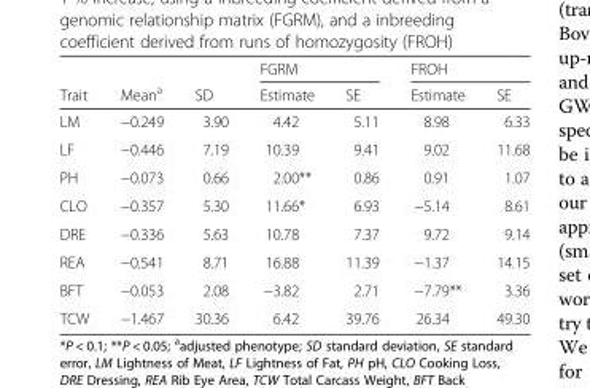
<table><thead><tr><td rowspan="2">Trait</td><td rowspan="2">Mean<sup>a</sup></td><td rowspan="2">SD</td><td colspan="2">FGRM</td><td colspan="2">FROH</td></tr><tr><td>Estimate</td><td>SE</td><td>Estimate</td><td>SE</td></tr></thead><tbody><tr><td>LM</td><td>−0.249</td><td>3.90</td><td>4.42</td><td>5.11</td><td>8.98</td><td>6.33</td></tr><tr><td>LF</td><td>−0.446</td><td>7.19</td><td>10.39</td><td>9.41</td><td>9.02</td><td>11.68</td></tr><tr><td>PH</td><td>−0.073</td><td>0.66</td><td>2.00**</td><td>0.86</td><td>0.91</td><td>1.07</td></tr><tr><td>CLO</td><td>−0.357</td><td>5.30</td><td>11.66*</td><td>6.93</td><td>−5.14</td><td>8.61</td></tr><tr><td>DRE</td><td>−0.336</td><td>5.63</td><td>10.78</td><td>7.37</td><td>9.72</td><td>9.14</td></tr><tr><td>REA</td><td>−0.541</td><td>8.71</td><td>16.88</td><td>11.39</td><td>−1.37</td><td>14.15</td></tr><tr><td>BFT</td><td>−0.053</td><td>2.08</td><td>−3.82</td><td>2.71</td><td>−7.79**</td><td>3.36</td></tr><tr><td>TCW</td><td>−1.467</td><td>30.36</td><td>6.42</td><td>39.76</td><td>26.34</td><td>49.30</td></tr></tbody></table>